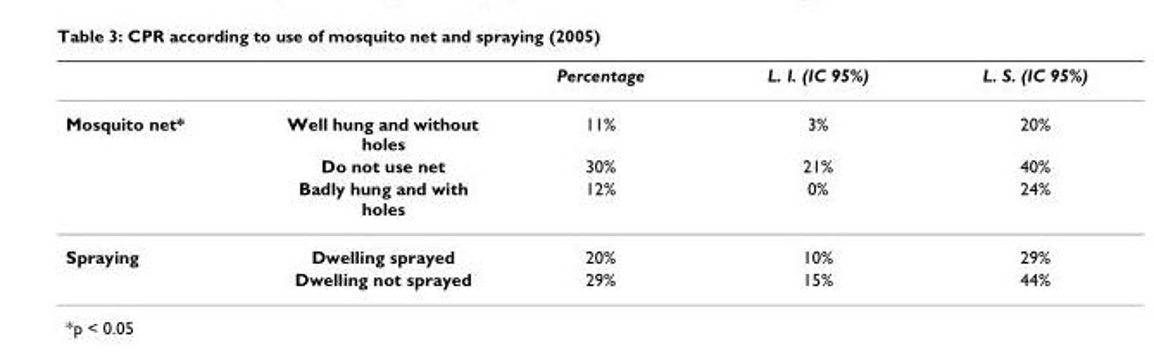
<table><thead><tr><td></td><td></td><td>Percentage</td><td>L. I. (IC 95%)</td><td>L. S. (IC 95%)</td></tr></thead><tbody><tr><td rowspan="3">Mosquito net*</td><td>Well hung and without holes</td><td>11%</td><td>3%</td><td>20%</td></tr><tr><td>Do not use net</td><td>30%</td><td>21%</td><td>40%</td></tr><tr><td>Badly hung and with holes</td><td>12%</td><td>0%</td><td>24%</td></tr><tr><td rowspan="2">Spraying</td><td>Dwelling sprayed</td><td>20%</td><td>10%</td><td>29%</td></tr><tr><td>Dwelling not sprayed</td><td>29%</td><td>15%</td><td>44%</td></tr></tbody></table>